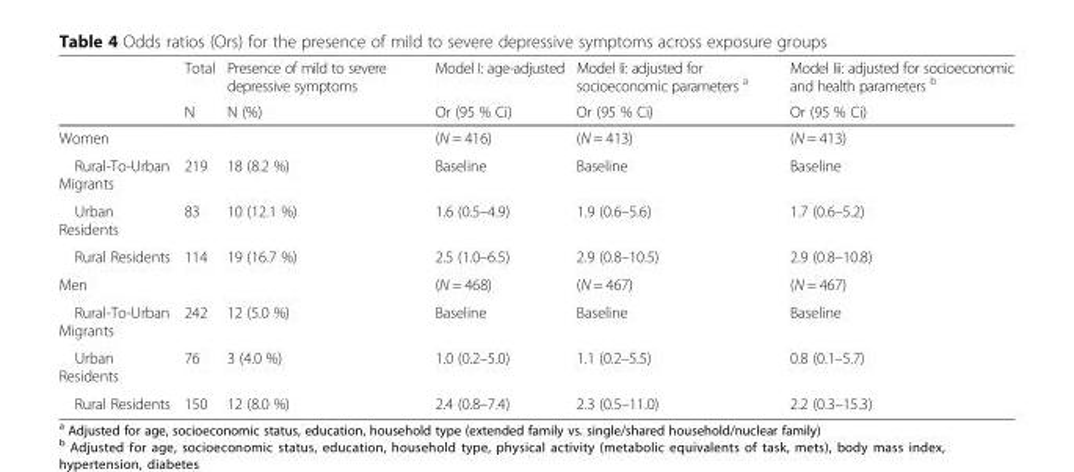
<table><thead><tr><td rowspan="2"></td><td rowspan="2">Total N</td><td rowspan="2">Presence of mild to severe depressive symptoms N (%)</td><td rowspan="2">Model I: age-adjusted Or (95 % Ci)</td><td rowspan="2">Model Ii: adjusted for socioeconomic parameters <sup>a</sup> Or (95 % Ci)</td><td rowspan="2">Model Iii: adjusted for socioeconomic and health parameters <sup>b</sup> Or (95 % Ci)</td></tr><tr></tr></thead><tbody><tr><td>Women</td><td></td><td></td><td>(N = 416)</td><td>(N = 413)</td><td>(N = 413)</td></tr><tr><td>Rural-To-Urban Migrants</td><td>219</td><td>18 (8.2 %)</td><td>Baseline</td><td>Baseline</td><td>Baseline</td></tr><tr><td>Urban Residents</td><td>83</td><td>10 (12.1 %)</td><td>1.6 (0.5–4.9)</td><td>1.9 (0.6–5.6)</td><td>1.7 (0.6–5.2)</td></tr><tr><td>Rural Residents</td><td>114</td><td>19 (16.7 %)</td><td>2.5 (1.0–6.5)</td><td>2.9 (0.8–10.5)</td><td>2.9 (0.8–10.8)</td></tr><tr><td>Men</td><td></td><td></td><td>(N = 468)</td><td>(N = 467)</td><td>(N = 467)</td></tr><tr><td>Rural-To-Urban Migrants</td><td>242</td><td>12 (5.0 %)</td><td>Baseline</td><td>Baseline</td><td>Baseline</td></tr><tr><td>Urban Residents</td><td>76</td><td>3 (4.0 %)</td><td>1.0 (0.2–5.0)</td><td>1.1 (0.2–5.5)</td><td>0.8 (0.1–5.7)</td></tr><tr><td>Rural Residents</td><td>150</td><td>12 (8.0 %)</td><td>2.4 (0.8–7.4)</td><td>2.3 (0.5–11.0)</td><td>2.2 (0.3–15.3)</td></tr></tbody></table>